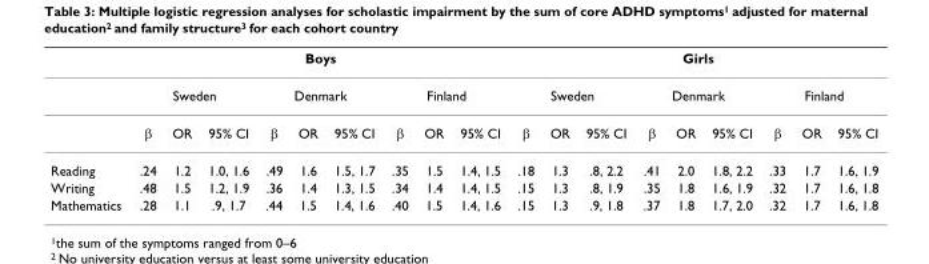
<table><thead><tr><td rowspan="3"></td><td colspan="9">Boys</td><td colspan="9">Girls</td></tr><tr><td colspan="3">Sweden</td><td colspan="3">Denmark</td><td colspan="3">Finland</td><td colspan="3">Sweden</td><td colspan="3">Denmark</td><td colspan="3">Finland</td></tr><tr><td>β</td><td>OR</td><td>95% CI</td><td>β</td><td>OR</td><td>95% CI</td><td>β</td><td>OR</td><td>95% CI</td><td>β</td><td>OR</td><td>95% CI</td><td>β</td><td>OR</td><td>95% CI</td><td>β</td><td>OR</td><td>95% CI</td></tr></thead><tbody><tr><td>Reading</td><td>.24</td><td>1.2</td><td>1.0, 1.6</td><td>.49</td><td>1.6</td><td>1.5, 1.7</td><td>.35</td><td>1.5</td><td>1.4, 1.5</td><td>.18</td><td>1.3</td><td>.8, 2.2</td><td>.41</td><td>2.0</td><td>1.8, 2.2</td><td>.33</td><td>1.7</td><td>1.6, 1.9</td></tr><tr><td>Writing</td><td>.48</td><td>1.5</td><td>1.2, 1.9</td><td>.36</td><td>1.4</td><td>1.3, 1.5</td><td>.34</td><td>1.4</td><td>1.4, 1.5</td><td>.15</td><td>1.3</td><td>.8, 1.9</td><td>.35</td><td>1.8</td><td>1.6, 1.9</td><td>.32</td><td>1.7</td><td>1.6, 1.8</td></tr><tr><td>Mathematics</td><td>.28</td><td>1.1</td><td>.9, 1.7</td><td>.44</td><td>1.5</td><td>1.4, 1.6</td><td>.40</td><td>1.5</td><td>1.4, 1.6</td><td>.15</td><td>1.3</td><td>.9, 1.8</td><td>.37</td><td>1.8</td><td>1.7, 2.0</td><td>.32</td><td>1.7</td><td>1.6, 1.8</td></tr></tbody></table>